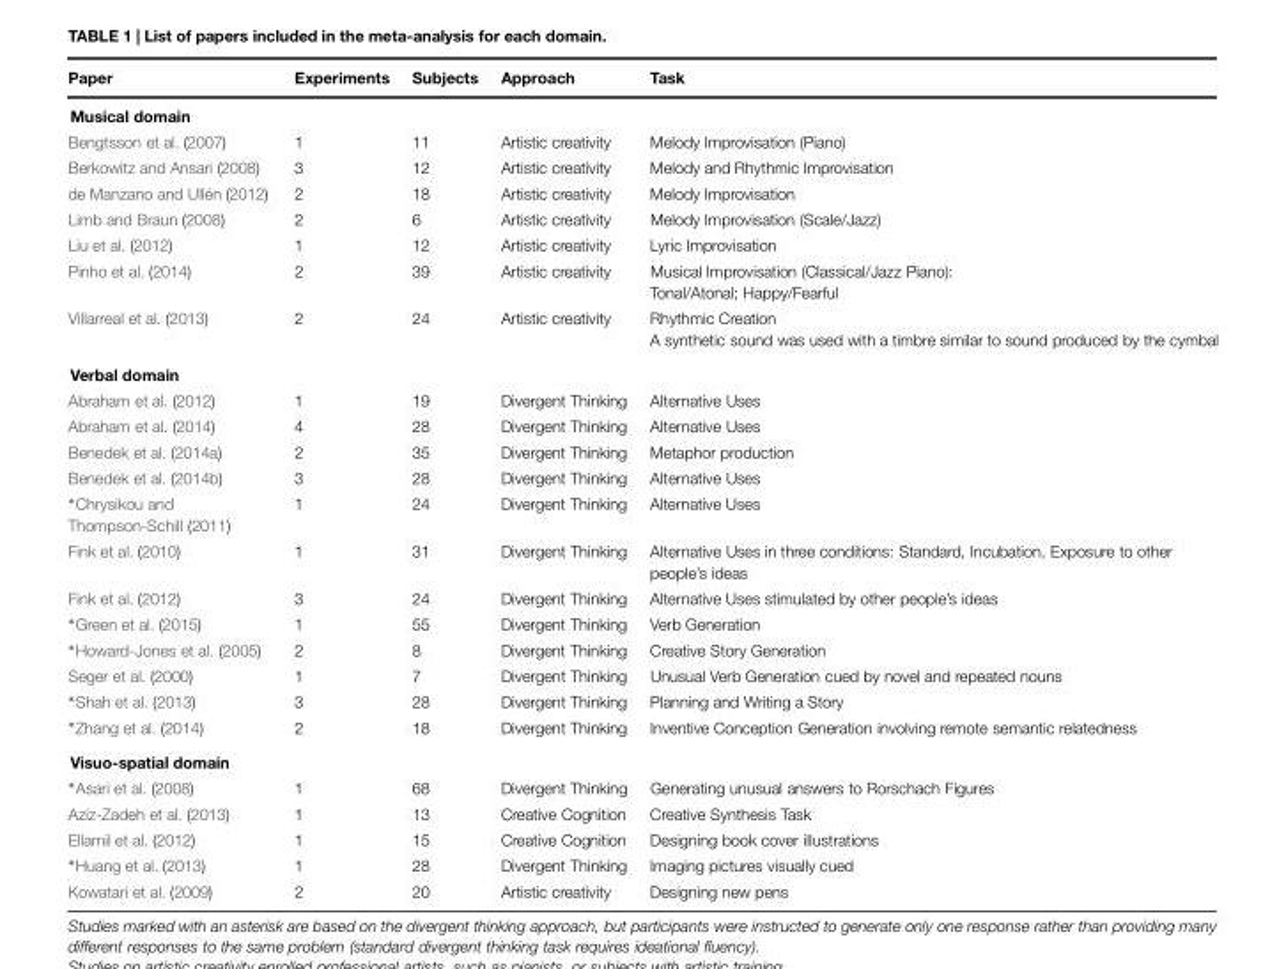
<table><thead><tr><td>Paper</td><td>Experiments</td><td>Subjects</td><td>Approach</td><td>Task</td></tr></thead><tbody><tr><td colspan="5">Musical domain</td></tr><tr><td>Bengtsson et al. (2007)</td><td>1</td><td>11</td><td>Artistic creativity</td><td>Melody Improvisation (Piano)</td></tr><tr><td>Berkowitz and Ansari (2008)</td><td>3</td><td>12</td><td>Artistic creativity</td><td>Melody and Rhythmic Improvisation</td></tr><tr><td>de Manzano and Ullén (2012)</td><td>2</td><td>18</td><td>Artistic creativity</td><td>Melody Improvisation</td></tr><tr><td>Limb and Braun (2008)</td><td>2</td><td>6</td><td>Artistic creativity</td><td>Melody Improvisation (Scale/Jazz)</td></tr><tr><td>Liu et al. (2012)</td><td>1</td><td>12</td><td>Artistic creativity</td><td>Lyric Improvisation</td></tr><tr><td>Pinho et al. (2014)</td><td>2</td><td>39</td><td>Artistic creativity</td><td>Musical Improvisation (Classical/Jazz Piano): Tonal/Atonal; Happy/Fearful</td></tr><tr><td>Villarreal et al. (2013)</td><td>2</td><td>24</td><td>Artistic creativity</td><td>Rhythmic Creation A synthetic sound was used with a timbre similar to sound produced by the cymbal</td></tr><tr><td colspan="5">Verbal domain</td></tr><tr><td>Abraham et al. (2012)</td><td>1</td><td>19</td><td>Divergent Thinking</td><td>Alternative Uses</td></tr><tr><td>Abraham et al. (2014)</td><td>4</td><td>28</td><td>Divergent Thinking</td><td>Alternative Uses</td></tr><tr><td>Benedek et al. (2014a)</td><td>2</td><td>35</td><td>Divergent Thinking</td><td>Metaphor production</td></tr><tr><td>Benedek et al. (2014b)</td><td>3</td><td>28</td><td>Divergent Thinking</td><td>Alternative Uses</td></tr><tr><td>∗Chrysikou and Thompson-Schill (2011)</td><td>1</td><td>24</td><td>Divergent Thinking</td><td>Alternative Uses</td></tr><tr><td>Fink et al. (2010)</td><td>1</td><td>31</td><td>Divergent Thinking</td><td>Alternative Uses in three conditions: Standard, Incubation, Exposure to other people’s ideas</td></tr><tr><td>Fink et al. (2012)</td><td>3</td><td>24</td><td>Divergent Thinking</td><td>Alternative Uses stimulated by other people’s ideas</td></tr><tr><td>∗Green et al. (2015)</td><td>1</td><td>55</td><td>Divergent Thinking</td><td>Verb Generation</td></tr><tr><td>∗Howard-Jones et al. (2005)</td><td>2</td><td>8</td><td>Divergent Thinking</td><td>Creative Story Generation</td></tr><tr><td>Seger et al. (2000)</td><td>1</td><td>7</td><td>Divergent Thinking</td><td>Unusual Verb Generation cued by novel and repeated nouns</td></tr><tr><td>∗Shah et al. (2013)</td><td>3</td><td>28</td><td>Divergent Thinking</td><td>Planning and Writing a Story</td></tr><tr><td>∗Zhang et al. (2014)</td><td>2</td><td>18</td><td>Divergent Thinking</td><td>Inventive Conception Generation involving remote semantic relatedness</td></tr><tr><td colspan="5">Visuo-spatial domain</td></tr><tr><td>∗Asari et al. (2008)</td><td>1</td><td>68</td><td>Divergent Thinking</td><td>Generating unusual answers to Rorschach Figures</td></tr><tr><td>Aziz-Zadeh et al. (2013)</td><td>1</td><td>13</td><td>Creative Cognition</td><td>Creative Synthesis Task</td></tr><tr><td>Ellamil et al. (2012)</td><td>1</td><td>15</td><td>Creative Cognition</td><td>Designing book cover illustrations</td></tr><tr><td>∗Huang et al. (2013)</td><td>1</td><td>28</td><td>Divergent Thinking</td><td>Imaging pictures visually cued</td></tr><tr><td>Kowatari et al. (2009)</td><td>2</td><td>20</td><td>Artistic creativity</td><td>Designing new pens</td></tr></tbody></table>